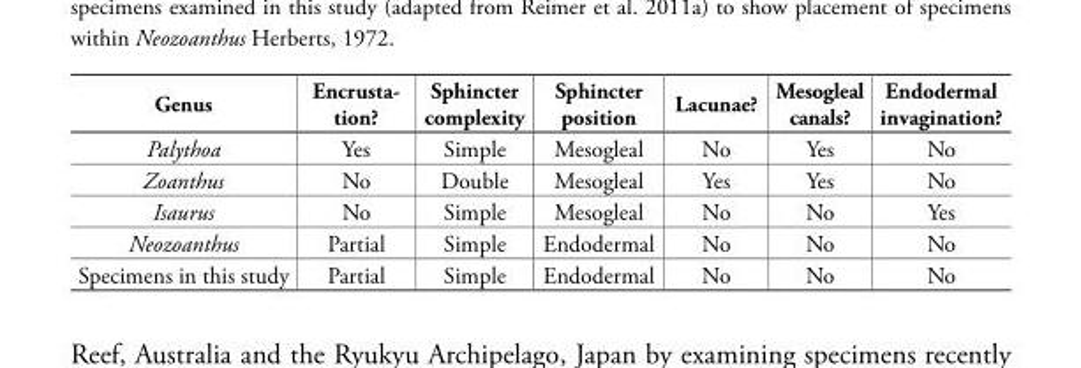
<table><thead><tr><td>Genus</td><td>Encrusta- tion?</td><td>Sphincter complexity</td><td>Sphincter position</td><td>Lacunae?</td><td>Mesogleal canals?</td><td>Endodermal invagination?</td></tr></thead><tbody><tr><td>Palythoa</td><td>Yes</td><td>Simple</td><td>Mesogleal</td><td>No</td><td>Yes</td><td>No</td></tr><tr><td>Zoanthus</td><td>No</td><td>Double</td><td>Mesogleal</td><td>Yes</td><td>Yes</td><td>No</td></tr><tr><td>Isaurus</td><td>No</td><td>Simple</td><td>Mesogleal</td><td>No</td><td>No</td><td>Yes</td></tr><tr><td>Neozoanthus</td><td>Partial</td><td>Simple</td><td>Endodermal</td><td>No</td><td>No</td><td>No</td></tr><tr><td>Specimens in this study</td><td>Partial</td><td>Simple</td><td>Endodermal</td><td>No</td><td>No</td><td>No</td></tr></tbody></table>